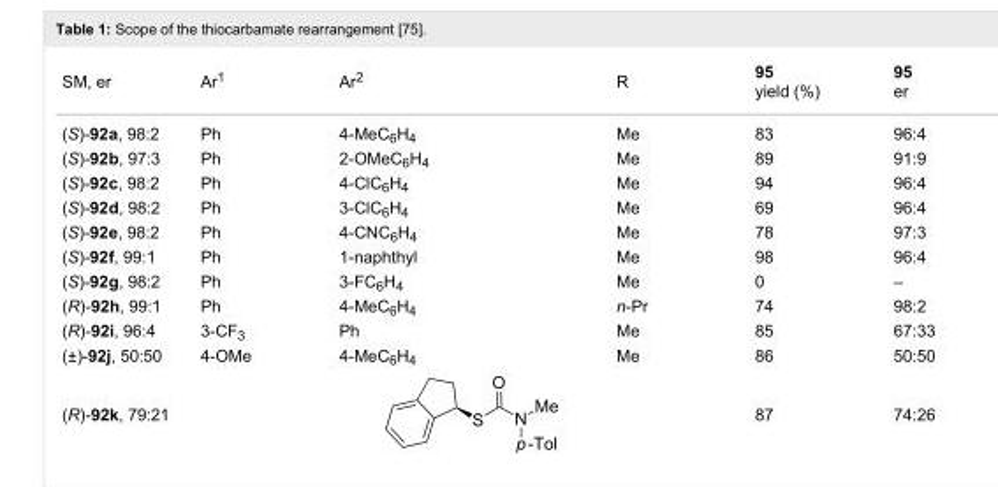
<table><tbody><tr><td>SM, er</td><td>Ar<sup>1</sup></td><td>Ar<sup>2</sup></td><td>R</td><td>95 yield (%)</td><td>95 er</td></tr><tr><td>(S)-92a, 98:2</td><td>Ph</td><td>4-MeC<sub>6</sub>H<sub>4</sub></td><td>Me</td><td>83</td><td>96:4</td></tr><tr><td>(S)-92b, 97:3</td><td>Ph</td><td>2-OMeC<sub>6</sub>H<sub>4</sub></td><td>Me</td><td>89</td><td>91:9</td></tr><tr><td>(S)-92c, 98:2</td><td>Ph</td><td>4-ClC<sub>6</sub>H<sub>4</sub></td><td>Me</td><td>94</td><td>96:4</td></tr><tr><td>(S)-92d, 98:2</td><td>Ph</td><td>3-ClC<sub>6</sub>H<sub>4</sub></td><td>Me</td><td>69</td><td>96:4</td></tr><tr><td>(S)-92e, 98:2</td><td>Ph</td><td>4-CNC<sub>6</sub>H<sub>4</sub></td><td>Me</td><td>78</td><td>97:3</td></tr><tr><td>(S)-92f, 99:1</td><td>Ph</td><td>1-naphthyl</td><td>Me</td><td>98</td><td>96:4</td></tr><tr><td>(S)-92g, 98:2</td><td>Ph</td><td>3-FC<sub>6</sub>H<sub>4</sub></td><td>Me</td><td>0</td><td>–</td></tr><tr><td>(R)-92h, 99:1</td><td>Ph</td><td>4-MeC<sub>6</sub>H<sub>4</sub></td><td>n-Pr</td><td>74</td><td>98:2</td></tr><tr><td>(R)-92i, 96:4</td><td>3-CF<sub>3</sub></td><td>Ph</td><td>Me</td><td>85</td><td>67:33</td></tr><tr><td>(±)-92j, 50:50</td><td>4-OMe</td><td>4-MeC<sub>6</sub>H<sub>4</sub></td><td>Me</td><td>86</td><td>50:50</td></tr><tr><td>(R)-92k, 79:21</td><td colspan="3"></td><td>87</td><td>74:26</td></tr></tbody></table>